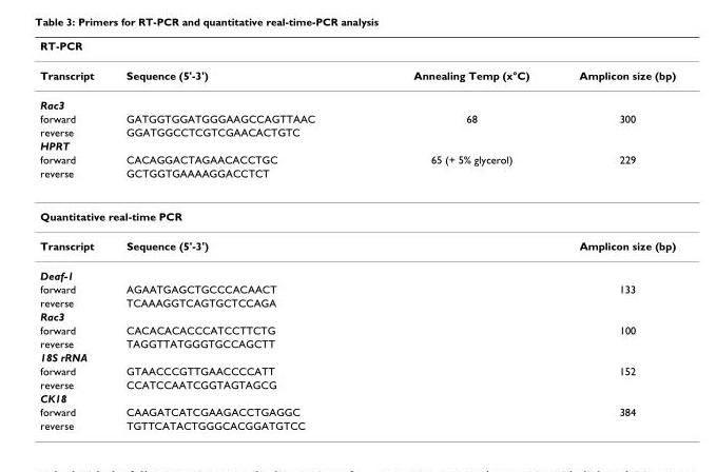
<table><thead><tr><td colspan="4">RT-PCR</td></tr><tr><td>Transcript</td><td>Sequence (5&#x27;-3&#x27;)</td><td>Annealing Temp (x°C)</td><td>Amplicon size (bp)</td></tr></thead><tbody><tr><td colspan="4">Rac3</td></tr><tr><td>forward</td><td>GATGGTGGATGGGAAGCCAGTTAAC</td><td>68</td><td>300</td></tr><tr><td>reverse</td><td>GGATGGCCTCGTCGAACACTGTC</td><td></td><td></td></tr><tr><td colspan="4">HPRT</td></tr><tr><td>forward</td><td>CACAGGACTAGAACACCTGC</td><td>65 (+ 5% glycerol)</td><td>229</td></tr><tr><td>reverse</td><td>GCTGGTGAAAAGGACCTCT</td><td></td><td></td></tr><tr><td colspan="4">Quantitative real-time PCR</td></tr><tr><td>Transcript</td><td>Sequence (5&#x27;-3&#x27;)</td><td></td><td>Amplicon size (bp)</td></tr><tr><td colspan="4">Deaf-1</td></tr><tr><td>forward</td><td>AGAATGAGCTGCCCACAACT</td><td></td><td>133</td></tr><tr><td>reverse</td><td>TCAAAGGTCAGTGCTCCAGA</td><td></td><td></td></tr><tr><td colspan="4">Rac3</td></tr><tr><td>forward</td><td>CACACACACCCATCCTTCTG</td><td></td><td>100</td></tr><tr><td>reverse</td><td>TAGGTTATGGGTGCCAGCTT</td><td></td><td></td></tr><tr><td colspan="4">18S rRNA</td></tr><tr><td>forward</td><td>GTAACCCGTTGAACCCCATT</td><td></td><td>152</td></tr><tr><td>reverse</td><td>CCATCCAATCGGTAGTAGCG</td><td></td><td></td></tr><tr><td colspan="4">CK18</td></tr><tr><td>forward</td><td>CAAGATCATCGAAGACCTGAGGC</td><td></td><td>384</td></tr><tr><td>reverse</td><td>TGTTCATACTGGGCACGGATGTCC</td><td></td><td></td></tr></tbody></table>